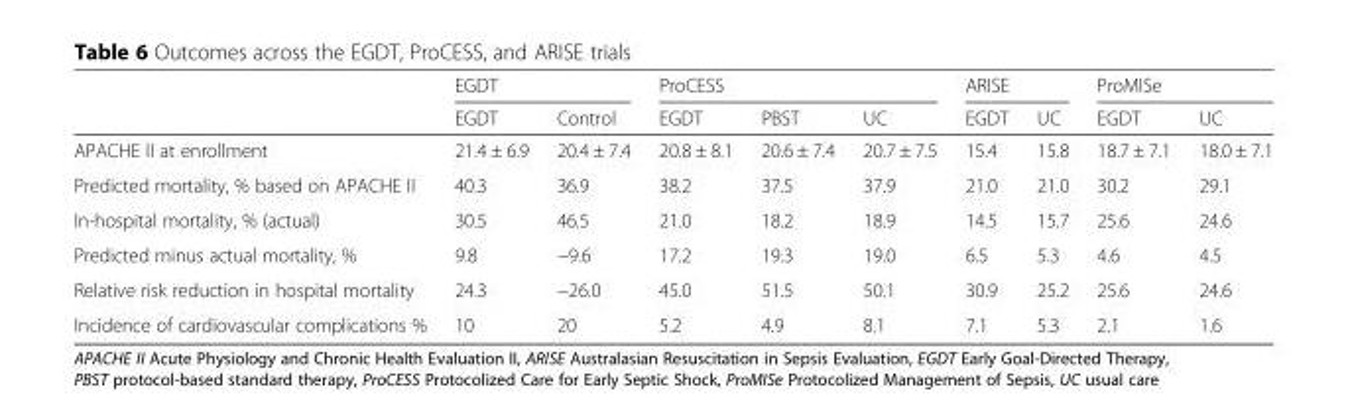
<table><thead><tr><td rowspan="2"></td><td colspan="2">EGDT</td><td colspan="3">ProCESS</td><td colspan="2">ARISE</td><td colspan="2">ProMISe</td></tr><tr><td>EGDT</td><td>Control</td><td>EGDT</td><td>PBST</td><td>UC</td><td>EGDT</td><td>UC</td><td>EGDT</td><td>UC</td></tr></thead><tbody><tr><td>APACHE II at enrollment</td><td>21.4 ± 6.9</td><td>20.4 ± 7.4</td><td>20.8 ± 8.1</td><td>20.6 ± 7.4</td><td>20.7 ± 7.5</td><td>15.4</td><td>15.8</td><td>18.7 ± 7.1</td><td>18.0 ± 7.1</td></tr><tr><td>Predicted mortality, % based on APACHE II</td><td>40.3</td><td>36.9</td><td>38.2</td><td>37.5</td><td>37.9</td><td>21.0</td><td>21.0</td><td>30.2</td><td>29.1</td></tr><tr><td>In-hospital mortality, % (actual)</td><td>30.5</td><td>46.5</td><td>21.0</td><td>18.2</td><td>18.9</td><td>14.5</td><td>15.7</td><td>25.6</td><td>24.6</td></tr><tr><td>Predicted minus actual mortality, %</td><td>9.8</td><td>−9.6</td><td>17.2</td><td>19.3</td><td>19.0</td><td>6.5</td><td>5.3</td><td>4.6</td><td>4.5</td></tr><tr><td>Relative risk reduction in hospital mortality</td><td>24.3</td><td>−26.0</td><td>45.0</td><td>51.5</td><td>50.1</td><td>30.9</td><td>25.2</td><td>25.6</td><td>24.6</td></tr><tr><td>Incidence of cardiovascular complications %</td><td>10</td><td>20</td><td>5.2</td><td>4.9</td><td>8.1</td><td>7.1</td><td>5.3</td><td>2.1</td><td>1.6</td></tr></tbody></table>